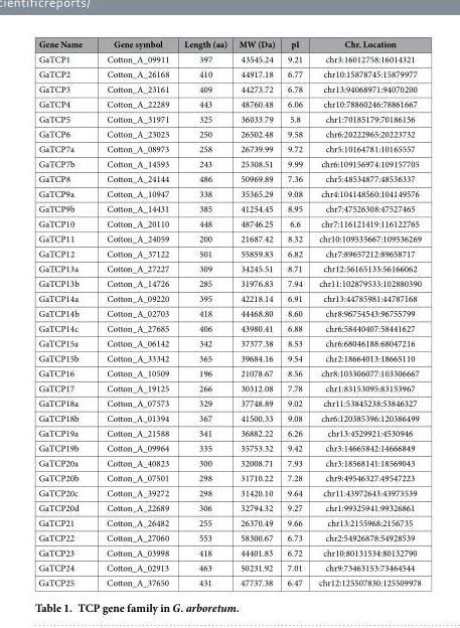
<table><thead><tr><td>Gene Name</td><td>Gene symbol</td><td>Length (aa)</td><td>MW (Da)</td><td>pI</td><td>Chr. Location</td></tr></thead><tbody><tr><td>GaTCP1</td><td>Cotton_A_09911</td><td>397</td><td>43545.24</td><td>9.21</td><td>chr3:16012758:16014321</td></tr><tr><td>GaTCP2</td><td>Cotton_A_26168</td><td>410</td><td>44917.18</td><td>6.77</td><td>chr10:15878745:15879977</td></tr><tr><td>GaTCP3</td><td>Cotton_A_23161</td><td>409</td><td>44273.72</td><td>6.78</td><td>chr13:94068971:94070200</td></tr><tr><td>GaTCP4</td><td>Cotton_A_22289</td><td>443</td><td>48760.48</td><td>6.06</td><td>chr10:78860246:78861667</td></tr><tr><td>GaTCP5</td><td>Cotton_A_31971</td><td>325</td><td>36033.79</td><td>5.8</td><td>chr1:70185179:70186156</td></tr><tr><td>GaTCP6</td><td>Cotton_A_23025</td><td>250</td><td>26502.48</td><td>9.58</td><td>chr6:20222965:20223732</td></tr><tr><td>GaTCP7a</td><td>Cotton_A_08973</td><td>258</td><td>26739.99</td><td>9.72</td><td>chr5:10164781:10165557</td></tr><tr><td>GaTCP7b</td><td>Cotton_A_14593</td><td>243</td><td>25308.51</td><td>9.99</td><td>chr6:109156974:109157705</td></tr><tr><td>GaTCP8</td><td>Cotton_A_24144</td><td>486</td><td>50969.89</td><td>7.36</td><td>chr5:48534877:48536337</td></tr><tr><td>GaTCP9a</td><td>Cotton_A_10947</td><td>338</td><td>35365.29</td><td>9.08</td><td>chr4:104148560:104149576</td></tr><tr><td>GaTCP9b</td><td>Cotton_A_14431</td><td>385</td><td>41254.45</td><td>8.95</td><td>chr7:47526308:47527465</td></tr><tr><td>GaTCP10</td><td>Cotton_A_20110</td><td>448</td><td>48746.25</td><td>6.6</td><td>chr7:116121419:116122765</td></tr><tr><td>GaTCP11</td><td>Cotton_A_24059</td><td>200</td><td>21687.42</td><td>8.32</td><td>chr10:109535667:109536269</td></tr><tr><td>GaTCP12</td><td>Cotton_A_37122</td><td>501</td><td>55859.83</td><td>6.82</td><td>chr7:89657212:89658717</td></tr><tr><td>GaTCP13a</td><td>Cotton_A_27227</td><td>309</td><td>34245.51</td><td>8.71</td><td>chr12:56165133:56166062</td></tr><tr><td>GaTCP13b</td><td>Cotton_A_14726</td><td>285</td><td>31976.83</td><td>7.94</td><td>chr11:102879533:102880390</td></tr><tr><td>GaTCP14a</td><td>Cotton_A_09220</td><td>395</td><td>42218.14</td><td>6.91</td><td>chr13:44785981:44787168</td></tr><tr><td>GaTCP14b</td><td>Cotton_A_02703</td><td>418</td><td>44468.80</td><td>8.60</td><td>chr8:96754543:96755799</td></tr><tr><td>GaTCP14c</td><td>Cotton_A_27685</td><td>406</td><td>43980.41</td><td>6.88</td><td>chr6:58440407:58441627</td></tr><tr><td>GaTCP15a</td><td>Cotton_A_06142</td><td>342</td><td>37377.38</td><td>8.53</td><td>chr6:68046188:68047216</td></tr><tr><td>GaTCP15b</td><td>Cotton_A_33342</td><td>365</td><td>39684.16</td><td>9.54</td><td>chr2:18664013:18665110</td></tr><tr><td>GaTCP16</td><td>Cotton_A_10509</td><td>196</td><td>21078.67</td><td>8.56</td><td>chr8:103306077:103306667</td></tr><tr><td>GaTCP17</td><td>Cotton_A_19125</td><td>266</td><td>30312.08</td><td>7.78</td><td>chr1:83153095:83153967</td></tr><tr><td>GaTCP18a</td><td>Cotton_A_07573</td><td>329</td><td>37748.89</td><td>9.02</td><td>chr11:53845238:53846327</td></tr><tr><td>GaTCP18b</td><td>Cotton_A_01394</td><td>367</td><td>41500.33</td><td>9.08</td><td>chr6:120385396:120386499</td></tr><tr><td>GaTCP19a</td><td>Cotton_A_21588</td><td>341</td><td>36882.22</td><td>6.26</td><td>chr13:4529921:4530946</td></tr><tr><td>GaTCP19b</td><td>Cotton_A_09964</td><td>335</td><td>35753.32</td><td>9.42</td><td>chr3:14665842:14666849</td></tr><tr><td>GaTCP20a</td><td>Cotton_A_40823</td><td>300</td><td>32008.71</td><td>7.93</td><td>chr3:18568141:18569043</td></tr><tr><td>GaTCP20b</td><td>Cotton_A_07501</td><td>298</td><td>31710.22</td><td>7.28</td><td>chr9:49546327:49547223</td></tr><tr><td>GaTCP20c</td><td>Cotton_A_39272</td><td>298</td><td>31420.10</td><td>9.64</td><td>chr11:43972643:43973539</td></tr><tr><td>GaTCP20d</td><td>Cotton_A_22689</td><td>306</td><td>32794.32</td><td>9.27</td><td>chr1:99325941:99326861</td></tr><tr><td>GaTCP21</td><td>Cotton_A_26482</td><td>255</td><td>26370.49</td><td>9.66</td><td>chr13:2155968:2156735</td></tr><tr><td>GaTCP22</td><td>Cotton_A_27060</td><td>553</td><td>58300.67</td><td>6.73</td><td>chr2:54926878:54928539</td></tr><tr><td>GaTCP23</td><td>Cotton_A_03998</td><td>418</td><td>44401.83</td><td>6.72</td><td>chr10:80131534:80132790</td></tr><tr><td>GaTCP24</td><td>Cotton_A_02913</td><td>463</td><td>50231.92</td><td>7.01</td><td>chr9:73463153:73464544</td></tr><tr><td>GaTCP25</td><td>Cotton_A_37650</td><td>431</td><td>47737.38</td><td>6.47</td><td>chr12:125507830:125509978</td></tr></tbody></table>